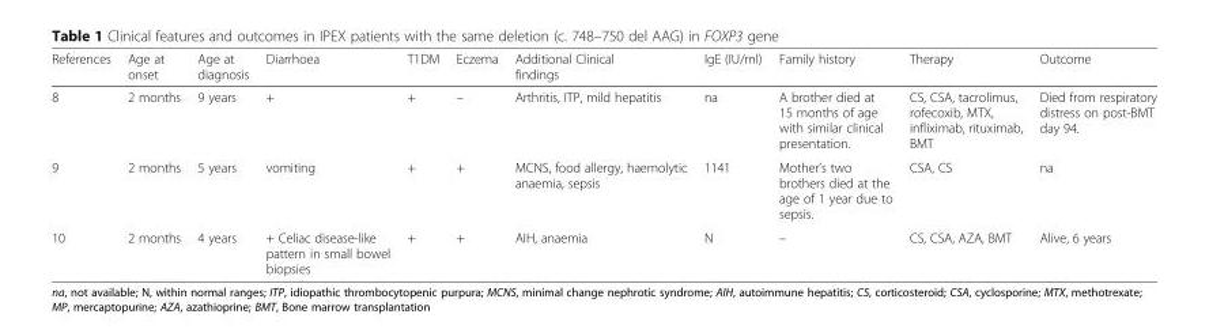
<table><thead><tr><td>References</td><td>Age at onset</td><td>Age at diagnosis</td><td>Diarrhoea</td><td>T1DM</td><td>Eczema</td><td>Additional Clinical findings</td><td>IgE (IU/ml)</td><td>Family history</td><td>Therapy</td><td>Outcome</td></tr></thead><tbody><tr><td>8</td><td>2 months</td><td>9 years</td><td>+</td><td>+</td><td>–</td><td>Arthritis, ITP, mild hepatitis</td><td>na</td><td>A brother died at 15 months of age with similar clinical presentation.</td><td>CS, CSA, tacrolimus, rofecoxib, MTX, infliximab, rituximab, BMT</td><td>Died from respiratory distress on post-BMT day 94.</td></tr><tr><td>9</td><td>2 months</td><td>5 years</td><td>vomiting</td><td>+</td><td>+</td><td>MCNS, food allergy, haemolytic anaemia, sepsis</td><td>1141</td><td>Mother’s two brothers died at the age of 1 year due to sepsis.</td><td>CSA, CS</td><td>na</td></tr><tr><td>10</td><td>2 months</td><td>4 years</td><td>+ Celiac disease-like pattern in small bowel biopsies</td><td>+</td><td>+</td><td>AIH, anaemia</td><td>N</td><td>–</td><td>CS, CSA, AZA, BMT</td><td>Alive, 6 years</td></tr></tbody></table>